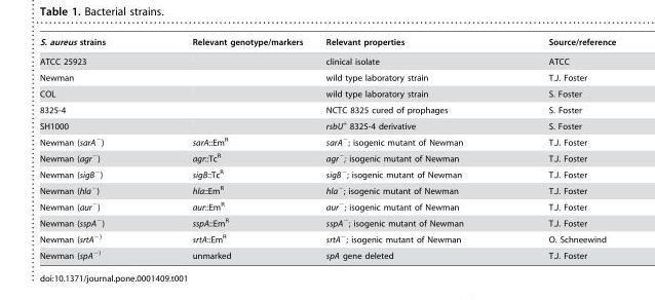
<table><thead><tr><td>S. aureus strains</td><td>Relevant genotype/markers</td><td>Relevant properties</td><td>Source/reference</td></tr></thead><tbody><tr><td>ATCC 25923</td><td></td><td>clinical isolate</td><td>ATCC</td></tr><tr><td>Newman</td><td></td><td>wild type laboratory strain</td><td>T.J. Foster</td></tr><tr><td>COL</td><td></td><td>wild type laboratory strain</td><td>S. Foster</td></tr><tr><td>8325-4</td><td></td><td>NCTC 8325 cured of prophages</td><td>S. Foster</td></tr><tr><td>SH1000</td><td></td><td>rsbU<sup>+</sup> 8325-4 derivative</td><td>S. Foster</td></tr><tr><td>Newman (sarA<sup>−</sup>)</td><td>sarA::Em<sup>R</sup></td><td>sarA<sup>−</sup>; isogenic mutant of Newman</td><td>T.J. Foster</td></tr><tr><td>Newman (agr<sup>−</sup>)</td><td>agr::Tc<sup>R</sup></td><td>agr<sup>−</sup>; isogenic mutant of Newman</td><td>T.J. Foster</td></tr><tr><td>Newman (sigB<sup>−</sup>)</td><td>sigB::Tc<sup>R</sup></td><td>sigB<sup>−</sup>; isogenic mutant of Newman</td><td>T.J. Foster</td></tr><tr><td>Newman (hla<sup>−</sup>)</td><td>hla::Em<sup>R</sup></td><td>hla<sup>−</sup>; isogenic mutant of Newman</td><td>T.J. Foster</td></tr><tr><td>Newman (aur<sup>−</sup>)</td><td>aur::Em<sup>R</sup></td><td>aur<sup>−</sup>; isogenic mutant of Newman</td><td>T.J. Foster</td></tr><tr><td>Newman (sspA<sup>−</sup>)</td><td>sspA::Em<sup>R</sup></td><td>sspA<sup>−</sup>; isogenic mutant of Newman</td><td>T.J. Foster</td></tr><tr><td>Newman (srtA<sup>−)</sup></td><td>srtA::Em<sup>R</sup></td><td>srtA<sup>−</sup>; isogenic mutant of Newman</td><td>O. Schneewind</td></tr><tr><td>Newman (spA<sup>−)</sup></td><td>unmarked</td><td>spA gene deleted</td><td>T.J. Foster</td></tr></tbody></table>